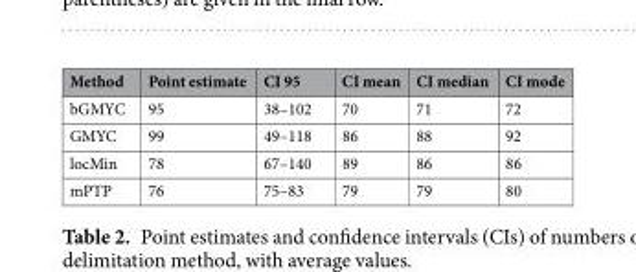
<table><thead><tr><td>Method</td><td>Point estimate</td><td>CI 95</td><td>CI mean</td><td>CI median</td><td>CI mode</td></tr></thead><tbody><tr><td>bGMYC</td><td>95</td><td>38–102</td><td>70</td><td>71</td><td>72</td></tr><tr><td>GMYC</td><td>99</td><td>49–118</td><td>86</td><td>88</td><td>92</td></tr><tr><td>locMin</td><td>78</td><td>67–140</td><td>89</td><td>86</td><td>86</td></tr><tr><td>mPTP</td><td>76</td><td>75–83</td><td>79</td><td>79</td><td>80</td></tr></tbody></table>